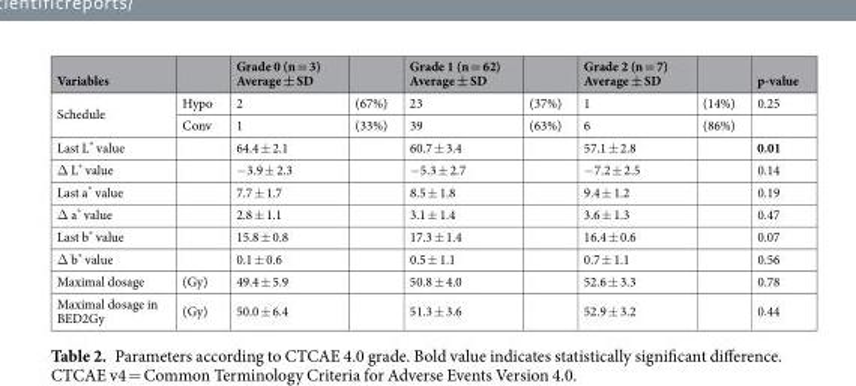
<table><thead><tr><td>Variables</td><td></td><td>Grade 0 (n = 3) Average ± SD</td><td></td><td>Grade 1 (n = 62) Average ± SD</td><td></td><td>Grade 2 (n = 7) Average ± SD</td><td></td><td>p-value</td></tr></thead><tbody><tr><td rowspan="2">Schedule</td><td>Hypo</td><td>2</td><td>(67%)</td><td>23</td><td>(37%)</td><td>1</td><td>(14%)</td><td>0.25</td></tr><tr><td>Conv</td><td>1</td><td>(33%)</td><td>39</td><td>(63%)</td><td>6</td><td>(86%)</td><td></td></tr><tr><td>Last L* value</td><td></td><td>64.4 ± 2.1</td><td></td><td>60.7 ± 3.4</td><td></td><td>57.1 ± 2.8</td><td></td><td>0.01</td></tr><tr><td>Δ L* value</td><td></td><td>−3.9 ± 2.3</td><td></td><td>−5.3 ± 2.7</td><td></td><td>−7.2 ± 2.5</td><td></td><td>0.14</td></tr><tr><td>Last a* value</td><td></td><td>7.7 ± 1.7</td><td></td><td>8.5 ± 1.8</td><td></td><td>9.4 ± 1.2</td><td></td><td>0.19</td></tr><tr><td>Δ a* value</td><td></td><td>2.8 ± 1.1</td><td></td><td>3.1 ± 1.4</td><td></td><td>3.6 ± 1.3</td><td></td><td>0.47</td></tr><tr><td>Last b* value</td><td></td><td>15.8 ± 0.8</td><td></td><td>17.3 ± 1.4</td><td></td><td>16.4 ± 0.6</td><td></td><td>0.07</td></tr><tr><td>Δ b* value</td><td></td><td>0.1 ± 0.6</td><td></td><td>0.5 ± 1.1</td><td></td><td>0.7 ± 1.1</td><td></td><td>0.56</td></tr><tr><td>Maximal dosage</td><td>(Gy)</td><td>49.4 ± 5.9</td><td></td><td>50.8 ± 4.0</td><td></td><td>52.6 ± 3.3</td><td></td><td>0.78</td></tr><tr><td>Maximal dosage in BED2Gy</td><td>(Gy)</td><td>50.0 ± 6.4</td><td></td><td>51.3 ± 3.6</td><td></td><td>52.9 ± 3.2</td><td></td><td>0.44</td></tr></tbody></table>